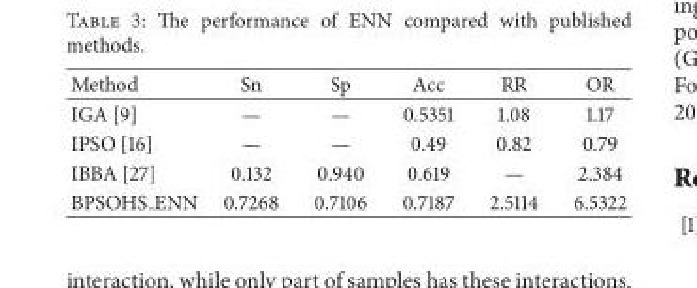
<table><thead><tr><td>Method</td><td>Sn</td><td>Sp</td><td>Acc</td><td>RR</td><td>OR</td></tr></thead><tbody><tr><td>IGA [9]</td><td>—</td><td>—</td><td>0.5351</td><td>1.08</td><td>1.17</td></tr><tr><td>IPSO [16]</td><td>—</td><td>—</td><td>0.49</td><td>0.82</td><td>0.79</td></tr><tr><td>IBBA [27]</td><td>0.132</td><td>0.940</td><td>0.619</td><td>—</td><td>2.384</td></tr><tr><td>BPSOHS ENN</td><td>0.7268</td><td>0.7106</td><td>0.7187</td><td>2.5114</td><td>6.5322</td></tr></tbody></table>